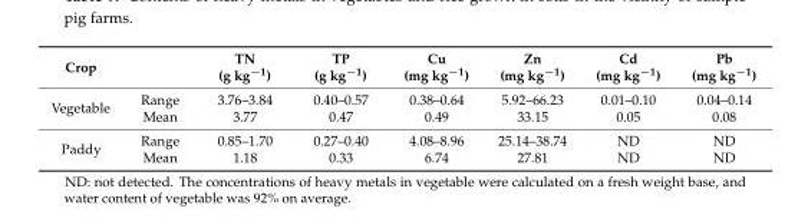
<table><thead><tr><td>Crop</td><td></td><td>TN (g kg<sup>−1</sup>)</td><td>TP (g kg<sup>−1</sup>)</td><td>Cu (mg kg<sup>−1</sup>)</td><td>Zn (mg kg<sup>−1</sup>)</td><td>Cd (mg kg<sup>−1</sup>)</td><td>Pb (mg kg<sup>−1</sup>)</td></tr></thead><tbody><tr><td rowspan="2">Vegetable</td><td>Range</td><td>3.76–3.84</td><td>0.40–0.57</td><td>0.38–0.64</td><td>5.92–66.23</td><td>0.01–0.10</td><td>0.04–0.14</td></tr><tr><td>Mean</td><td>3.77</td><td>0.47</td><td>0.49</td><td>33.15</td><td>0.05</td><td>0.08</td></tr><tr><td rowspan="2">Paddy</td><td>Range</td><td>0.85–1.70</td><td>0.27–0.40</td><td>4.08–8.96</td><td>25.14–38.74</td><td>ND</td><td>ND</td></tr><tr><td>Mean</td><td>1.18</td><td>0.33</td><td>6.74</td><td>27.81</td><td>ND</td><td>ND</td></tr></tbody></table>